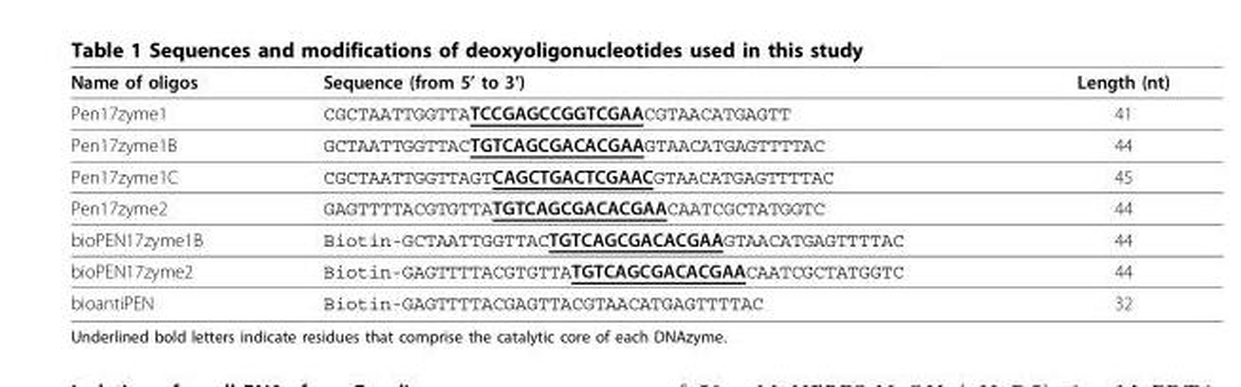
<table><thead><tr><td>Name of oligos</td><td>Sequence (from 5’ to 3’)</td><td>Length (nt)</td></tr></thead><tbody><tr><td>Pen17zyme1</td><td>CGCTAATTGGTTATCCGAGCCGGTCGAACGTAACATGAGTT</td><td>41</td></tr><tr><td>Pen17zyme1B</td><td>GCTAATTGGTTACTGTCAGCGACACGAAGTAACATGAGTTTTAC</td><td>44</td></tr><tr><td>Pen17zyme1C</td><td>CGCTAATTGGTTAGTCAGCTGACTCGAACGTAACATGAGTTTTAC</td><td>45</td></tr><tr><td>Pen17zyme2</td><td>GAGTTTTACGTGTTATGTCAGCGACACGAACAATCGCTATGGTC</td><td>44</td></tr><tr><td>bioPEN17zyme1B</td><td>Biotin-GCTAATTGGTTACTGTCAGCGACACGAAGTAACATGAGTTTTAC</td><td>44</td></tr><tr><td>bioPEN17zyme2</td><td>Biotin-GAGTTTTACGTGTTATGTCAGCGACACGAACAATCGCTATGGTC</td><td>44</td></tr><tr><td>bioantiPEN</td><td>Biotin-GAGTTTTACGAGTTACGTAACATGAGTTTTAC</td><td>32</td></tr></tbody></table>